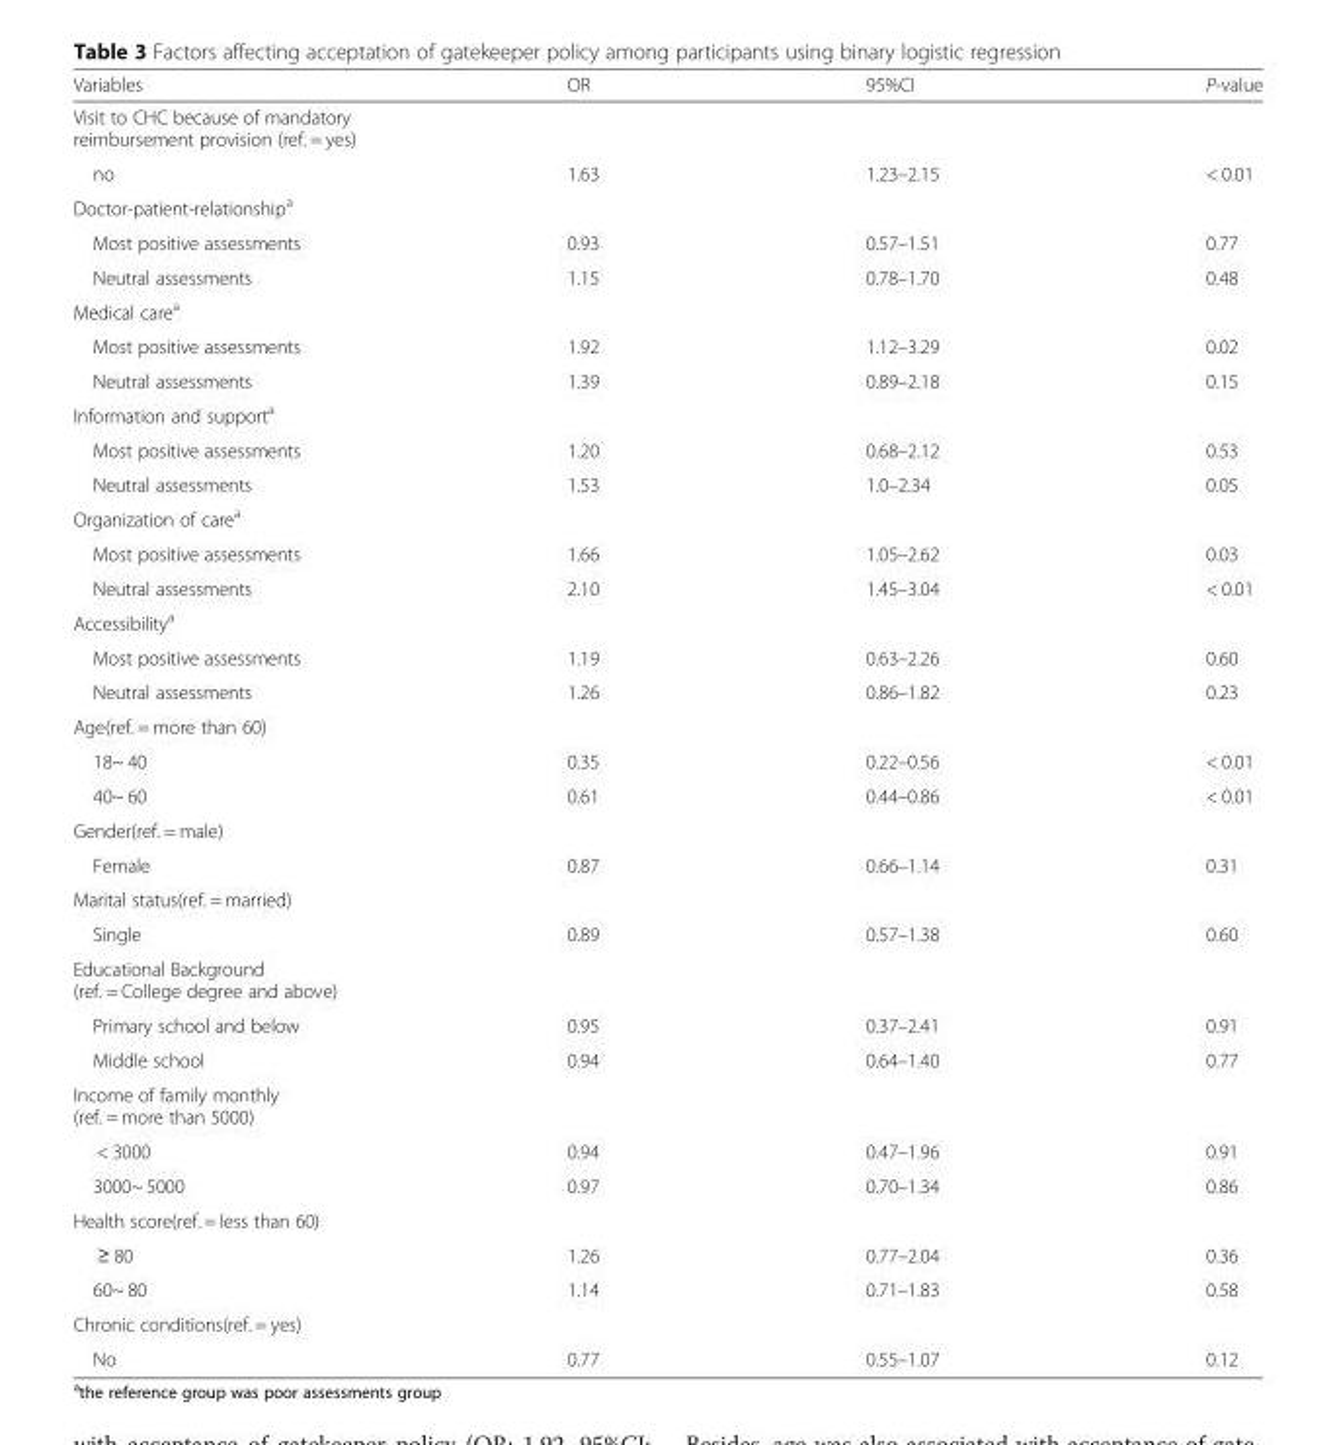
<table><thead><tr><td>Variables</td><td>OR</td><td>95%CI</td><td>P-value</td></tr></thead><tbody><tr><td colspan="4">Visit to CHC because of mandatory reimbursement provision (ref. = yes)</td></tr><tr><td>no</td><td>1.63</td><td>1.23–2.15</td><td>&lt; 0.01</td></tr><tr><td colspan="4">Doctor-patient-relationship<sup>a</sup></td></tr><tr><td>Most positive assessments</td><td>0.93</td><td>0.57–1.51</td><td>0.77</td></tr><tr><td>Neutral assessments</td><td>1.15</td><td>0.78–1.70</td><td>0.48</td></tr><tr><td colspan="4">Medical care<sup>a</sup></td></tr><tr><td>Most positive assessments</td><td>1.92</td><td>1.12–3.29</td><td>0.02</td></tr><tr><td>Neutral assessments</td><td>1.39</td><td>0.89–2.18</td><td>0.15</td></tr><tr><td colspan="4">Information and support<sup>a</sup></td></tr><tr><td>Most positive assessments</td><td>1.20</td><td>0.68–2.12</td><td>0.53</td></tr><tr><td>Neutral assessments</td><td>1.53</td><td>1.0–2.34</td><td>0.05</td></tr><tr><td colspan="4">Organization of care<sup>a</sup></td></tr><tr><td>Most positive assessments</td><td>1.66</td><td>1.05–2.62</td><td>0.03</td></tr><tr><td>Neutral assessments</td><td>2.10</td><td>1.45–3.04</td><td>&lt; 0.01</td></tr><tr><td colspan="4">Accessibility<sup>a</sup></td></tr><tr><td>Most positive assessments</td><td>1.19</td><td>0.63–2.26</td><td>0.60</td></tr><tr><td>Neutral assessments</td><td>1.26</td><td>0.86–1.82</td><td>0.23</td></tr><tr><td colspan="4">Age(ref. = more than 60)</td></tr><tr><td>18~ 40</td><td>0.35</td><td>0.22–0.56</td><td>&lt; 0.01</td></tr><tr><td>40~ 60</td><td>0.61</td><td>0.44–0.86</td><td>&lt; 0.01</td></tr><tr><td colspan="4">Gender(ref. = male)</td></tr><tr><td>Female</td><td>0.87</td><td>0.66–1.14</td><td>0.31</td></tr><tr><td colspan="4">Marital status(ref. = married)</td></tr><tr><td>Single</td><td>0.89</td><td>0.57–1.38</td><td>0.60</td></tr><tr><td colspan="4">Educational Background (ref. = College degree and above)</td></tr><tr><td>Primary school and below</td><td>0.95</td><td>0.37–2.41</td><td>0.91</td></tr><tr><td>Middle school</td><td>0.94</td><td>0.64–1.40</td><td>0.77</td></tr><tr><td colspan="4">Income of family monthly (ref. = more than 5000)</td></tr><tr><td>&lt; 3000</td><td>0.94</td><td>0.47–1.96</td><td>0.91</td></tr><tr><td>3000~ 5000</td><td>0.97</td><td>0.70–1.34</td><td>0.86</td></tr><tr><td colspan="4">Health score(ref. = less than 60)</td></tr><tr><td>≥ 80</td><td>1.26</td><td>0.77–2.04</td><td>0.36</td></tr><tr><td>60~ 80</td><td>1.14</td><td>0.71–1.83</td><td>0.58</td></tr><tr><td colspan="4">Chronic conditions(ref. = yes)</td></tr><tr><td>No</td><td>0.77</td><td>0.55–1.07</td><td>0.12</td></tr></tbody></table>